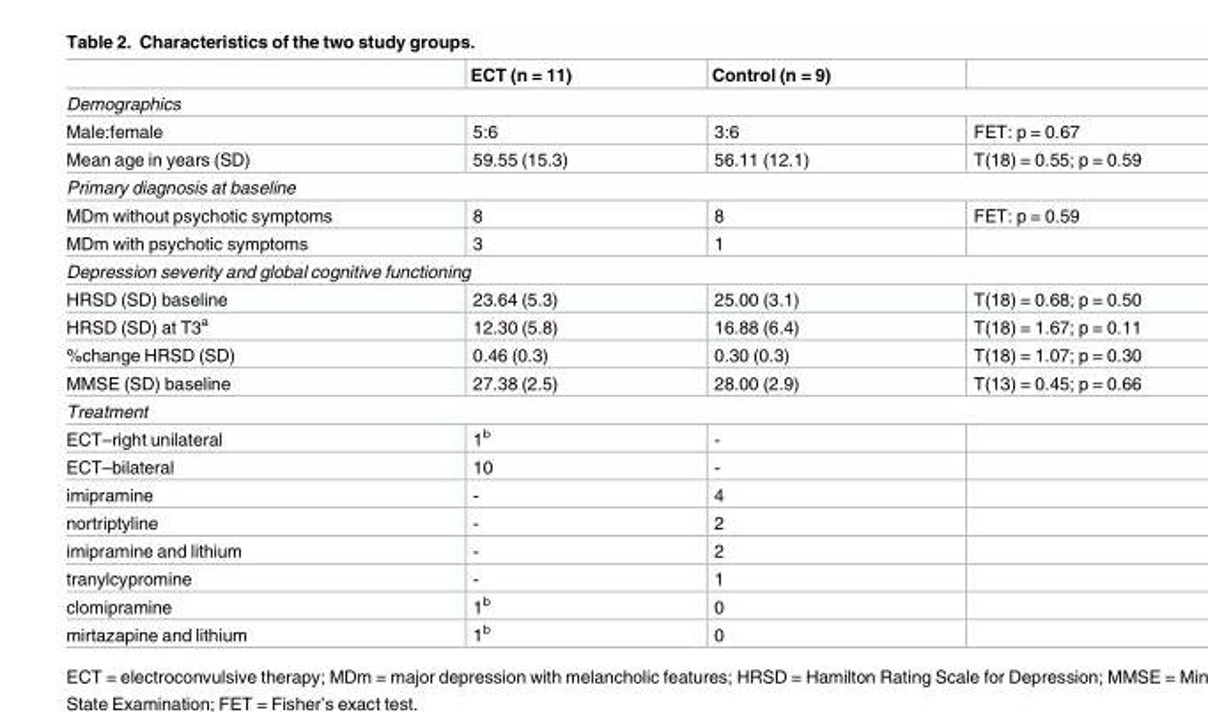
<table><thead><tr><td></td><td>ECT (n = 11)</td><td>Control (n = 9)</td><td></td></tr></thead><tbody><tr><td colspan="4">Demographics</td></tr><tr><td>Male:female</td><td>5:6</td><td>3:6</td><td>FET: p = 0.67</td></tr><tr><td>Mean age in years (SD)</td><td>59.55 (15.3)</td><td>56.11 (12.1)</td><td>T(18) = 0.55; p = 0.59</td></tr><tr><td colspan="4">Primary diagnosis at baseline</td></tr><tr><td>MDm without psychotic symptoms</td><td>8</td><td>8</td><td>FET: p = 0.59</td></tr><tr><td>MDm with psychotic symptoms</td><td>3</td><td>1</td><td></td></tr><tr><td colspan="4">Depression severity and global cognitive functioning</td></tr><tr><td>HRSD (SD) baseline</td><td>23.64 (5.3)</td><td>25.00 (3.1)</td><td>T(18) = 0.68; p = 0.50</td></tr><tr><td>HRSD (SD) at T3<sup>a</sup></td><td>12.30 (5.8)</td><td>16.88 (6.4)</td><td>T(18) = 1.67; p = 0.11</td></tr><tr><td>%change HRSD (SD)</td><td>0.46 (0.3)</td><td>0.30 (0.3)</td><td>T(18) = 1.07; p = 0.30</td></tr><tr><td>MMSE (SD) baseline</td><td>27.38 (2.5)</td><td>28.00 (2.9)</td><td>T(13) = 0.45; p = 0.66</td></tr><tr><td colspan="4">Treatment</td></tr><tr><td>ECT–right unilateral</td><td>1<sup>b</sup></td><td>-</td><td></td></tr><tr><td>ECT–bilateral</td><td>10</td><td>-</td><td></td></tr><tr><td>imipramine</td><td>-</td><td>4</td><td></td></tr><tr><td>nortriptyline</td><td>-</td><td>2</td><td></td></tr><tr><td>imipramine and lithium</td><td>-</td><td>2</td><td></td></tr><tr><td>tranylcypromine</td><td>-</td><td>1</td><td></td></tr><tr><td>clomipramine</td><td>1<sup>b</sup></td><td>0</td><td></td></tr><tr><td>mirtazapine and lithium</td><td>1<sup>b</sup></td><td>0</td><td></td></tr></tbody></table>